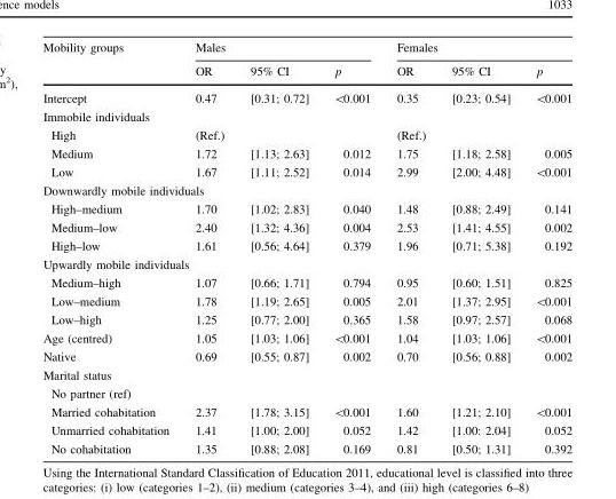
<table><thead><tr><td rowspan="2">Mobility groups</td><td colspan="3">Males</td><td colspan="3">Females</td></tr><tr><td>OR</td><td>95% CI</td><td>p</td><td>OR</td><td>95% CI</td><td>p</td></tr></thead><tbody><tr><td>Intercept</td><td>0.47</td><td>[0.31; 0.72]</td><td>&lt;0.001</td><td>0.35</td><td>[0.23; 0.54]</td><td>&lt;0.001</td></tr><tr><td colspan="7">Immobile individuals</td></tr><tr><td>High</td><td>(Ref.)</td><td></td><td></td><td>(Ref.)</td><td></td><td></td></tr><tr><td>Medium</td><td>1.72</td><td>[1.13; 2.63]</td><td>0.012</td><td>1.75</td><td>[1.18; 2.58]</td><td>0.005</td></tr><tr><td>Low</td><td>1.67</td><td>[1.11; 2.52]</td><td>0.014</td><td>2.99</td><td>[2.00; 4.48]</td><td>&lt;0.001</td></tr><tr><td colspan="7">Downwardly mobile individuals</td></tr><tr><td>High–medium</td><td>1.70</td><td>[1.02; 2.83]</td><td>0.040</td><td>1.48</td><td>[0.88; 2.49]</td><td>0.141</td></tr><tr><td>Medium–low</td><td>2.40</td><td>[1.32; 4.36]</td><td>0.004</td><td>2.53</td><td>[1.41; 4.55]</td><td>0.002</td></tr><tr><td>High–low</td><td>1.61</td><td>[0.56; 4.64]</td><td>0.379</td><td>1.96</td><td>[0.71; 5.38]</td><td>0.192</td></tr><tr><td colspan="7">Upwardly mobile individuals</td></tr><tr><td>Medium–high</td><td>1.07</td><td>[0.66; 1.71]</td><td>0.794</td><td>0.95</td><td>[0.60; 1.51]</td><td>0.825</td></tr><tr><td>Low–medium</td><td>1.78</td><td>[1.19; 2.65]</td><td>0.005</td><td>2.01</td><td>[1.37; 2.95]</td><td>&lt;0.001</td></tr><tr><td>Low–high</td><td>1.25</td><td>[0.77; 2.00]</td><td>0.365</td><td>1.58</td><td>[0.97; 2.57]</td><td>0.068</td></tr><tr><td>Age (centred)</td><td>1.05</td><td>[1.03; 1.06]</td><td>&lt;0.001</td><td>1.04</td><td>[1.03; 1.06]</td><td>&lt;0.001</td></tr><tr><td>Native</td><td>0.69</td><td>[0.55; 0.87]</td><td>0.002</td><td>0.70</td><td>[0.56; 0.88]</td><td>0.002</td></tr><tr><td colspan="7">Marital status</td></tr><tr><td colspan="7">No partner (ref)</td></tr><tr><td>Married cohabitation</td><td>2.37</td><td>[1.78; 3.15]</td><td>&lt;0.001</td><td>1.60</td><td>[1.21; 2.10]</td><td>&lt;0.001</td></tr><tr><td>Unmarried cohabitation</td><td>1.41</td><td>[1.00; 2.00]</td><td>0.052</td><td>1.42</td><td>[1.00: 2.04]</td><td>0.052</td></tr><tr><td>No cohabitation</td><td>1.35</td><td>[0.88; 2.08]</td><td>0.169</td><td>0.81</td><td>[0.50; 1.31]</td><td>0.392</td></tr></tbody></table>